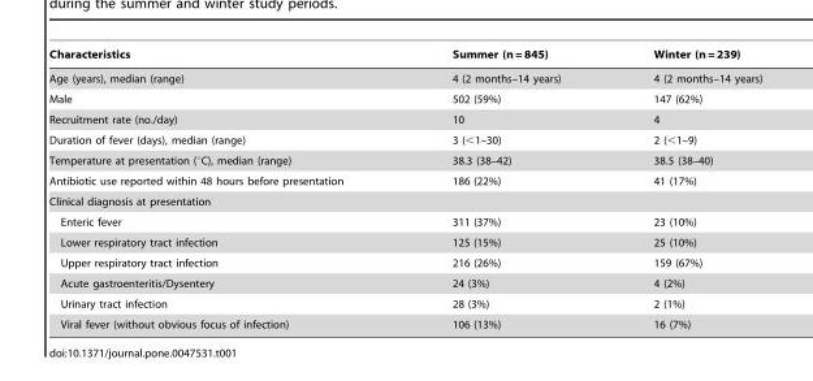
<table><thead><tr><td>Characteristics</td><td>Summer (n = 845)</td><td>Winter (n = 239)</td></tr></thead><tbody><tr><td>Age (years), median (range)</td><td>4 (2 months–14 years)</td><td>4 (2 months–14 years)</td></tr><tr><td>Male</td><td>502 (59%)</td><td>147 (62%)</td></tr><tr><td>Recruitment rate (no./day)</td><td>10</td><td>4</td></tr><tr><td>Duration of fever (days), median (range)</td><td>3 (&lt;1–30)</td><td>2 (&lt;1–9)</td></tr><tr><td>Temperature at presentation (°C), median (range)</td><td>38.3 (38–42)</td><td>38.5 (38–40)</td></tr><tr><td>Antibiotic use reported within 48 hours before presentation</td><td>186 (22%)</td><td>41 (17%)</td></tr><tr><td colspan="3">Clinical diagnosis at presentation</td></tr><tr><td>Enteric fever</td><td>311 (37%)</td><td>23 (10%)</td></tr><tr><td>Lower respiratory tract infection</td><td>125 (15%)</td><td>25 (10%)</td></tr><tr><td>Upper respiratory tract infection</td><td>216 (26%)</td><td>159 (67%)</td></tr><tr><td>Acute gastroenteritis/Dysentery</td><td>24 (3%)</td><td>4 (2%)</td></tr><tr><td>Urinary tract infection</td><td>28 (3%)</td><td>2 (1%)</td></tr><tr><td>Viral fever (without obvious focus of infection)</td><td>106 (13%)</td><td>16 (7%)</td></tr></tbody></table>